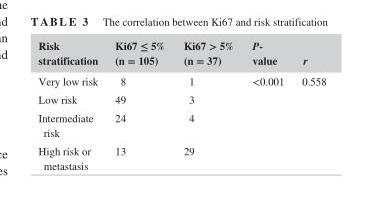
<table><thead><tr><td>Risk stratification</td><td>Ki67 ≤ 5% (n = 105)</td><td>Ki67 &gt; 5% (n = 37)</td><td>P- value</td><td>r</td></tr></thead><tbody><tr><td>Very low risk</td><td>8</td><td>1</td><td rowspan="4">&lt;0.001</td><td rowspan="4">0.558</td></tr><tr><td>Low risk</td><td>49</td><td>3</td></tr><tr><td>Intermediate risk</td><td>24</td><td>4</td></tr><tr><td>High risk or metastasis</td><td>13</td><td>29</td></tr></tbody></table>